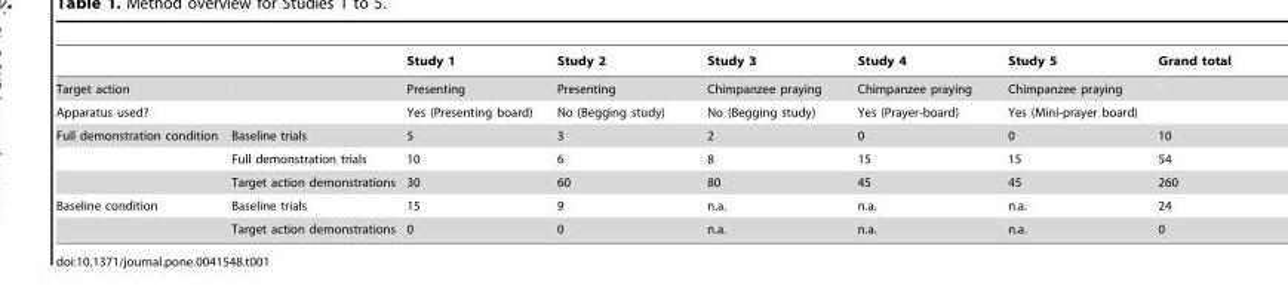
<table><thead><tr><td></td><td></td><td>Study 1</td><td>Study 2</td><td>Study 3</td><td>Study 4</td><td>Study 5</td><td>Grand total</td></tr></thead><tbody><tr><td>Target action</td><td></td><td>Presenting</td><td>Presenting</td><td>Chimpanzee praying</td><td>Chimpanzee praying</td><td>Chimpanzee praying</td><td></td></tr><tr><td>Apparatus used?</td><td></td><td>Yes (Presenting board)</td><td>No (Begging study)</td><td>No (Begging study)</td><td>Yes (Prayer-board)</td><td>Yes (Mini-prayer board)</td><td></td></tr><tr><td rowspan="3">Full demonstration condition</td><td>Baseline trials</td><td>5</td><td>3</td><td>2</td><td>0</td><td>0</td><td>10</td></tr><tr><td>Full demonstration trials</td><td>10</td><td>6</td><td>8</td><td>15</td><td>15</td><td>54</td></tr><tr><td>Target action demonstrations</td><td>30</td><td>60</td><td>80</td><td>45</td><td>45</td><td>260</td></tr><tr><td rowspan="2">Baseline condition</td><td>Baseline trials</td><td>15</td><td>9</td><td>n.a.</td><td>n.a.</td><td>n.a.</td><td>24</td></tr><tr><td>Target action demonstrations</td><td>0</td><td>0</td><td>n.a.</td><td>n.a.</td><td>n.a.</td><td>0</td></tr></tbody></table>